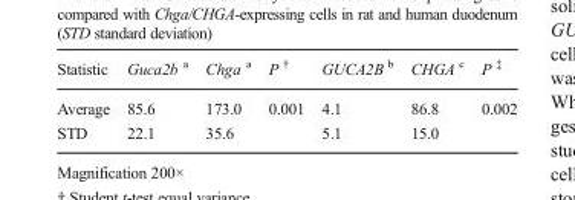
<table><thead><tr><td>Statistic</td><td>Guca2b <sup>a</sup></td><td>Chga <sup>a</sup></td><td>P <sup>†</sup></td><td>GUCA2B <sup>b</sup></td><td>CHGA <sup>c</sup></td><td>P <sup>‡</sup></td></tr></thead><tbody><tr><td>Average</td><td>85.6</td><td>173.0</td><td>0.001</td><td>4.1</td><td>86.8</td><td>0.002</td></tr><tr><td>STD</td><td>22.1</td><td>35.6</td><td></td><td>5.1</td><td>15.0</td><td></td></tr></tbody></table>